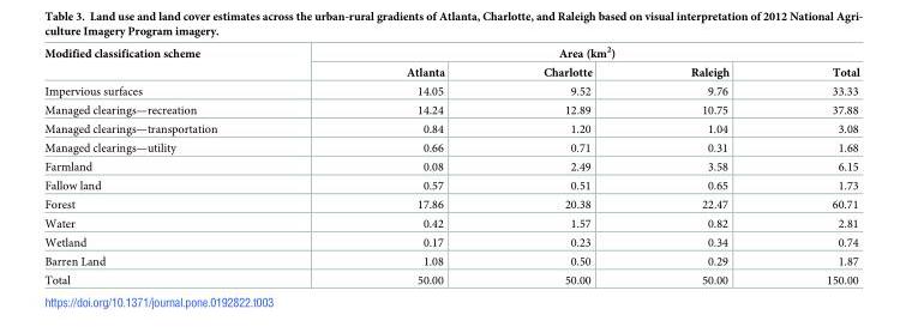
<table><thead><tr><td rowspan="2">Modified classification scheme</td><td colspan="4">Area (km<sup>2</sup>)</td></tr><tr><td>Atlanta</td><td>Charlotte</td><td>Raleigh</td><td>Total</td></tr></thead><tbody><tr><td>Impervious surfaces</td><td>14.05</td><td>9.52</td><td>9.76</td><td>33.33</td></tr><tr><td>Managed clearings—recreation</td><td>14.24</td><td>12.89</td><td>10.75</td><td>37.88</td></tr><tr><td>Managed clearings—transportation</td><td>0.84</td><td>1.20</td><td>1.04</td><td>3.08</td></tr><tr><td>Managed clearings—utility</td><td>0.66</td><td>0.71</td><td>0.31</td><td>1.68</td></tr><tr><td>Farmland</td><td>0.08</td><td>2.49</td><td>3.58</td><td>6.15</td></tr><tr><td>Fallow land</td><td>0.57</td><td>0.51</td><td>0.65</td><td>1.73</td></tr><tr><td>Forest</td><td>17.86</td><td>20.38</td><td>22.47</td><td>60.71</td></tr><tr><td>Water</td><td>0.42</td><td>1.57</td><td>0.82</td><td>2.81</td></tr><tr><td>Wetland</td><td>0.17</td><td>0.23</td><td>0.34</td><td>0.74</td></tr><tr><td>Barren Land</td><td>1.08</td><td>0.50</td><td>0.29</td><td>1.87</td></tr><tr><td>Total</td><td>50.00</td><td>50.00</td><td>50.00</td><td>150.00</td></tr></tbody></table>